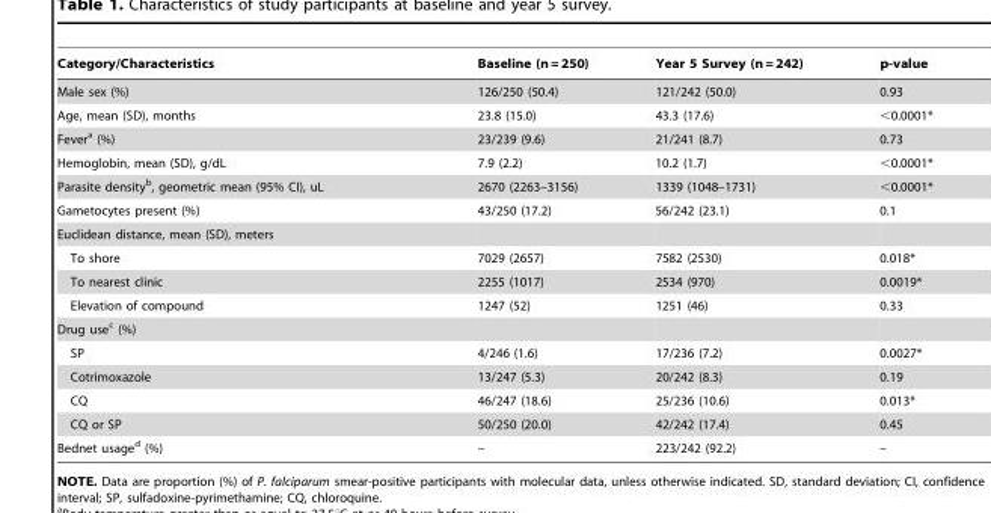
<table><thead><tr><td>Category/Characteristics</td><td>Baseline (n = 250)</td><td>Year 5 Survey (n = 242)</td><td>p-value</td></tr></thead><tbody><tr><td>Male sex (%)</td><td>126/250 (50.4)</td><td>121/242 (50.0)</td><td>0.93</td></tr><tr><td>Age, mean (SD), months</td><td>23.8 (15.0)</td><td>43.3 (17.6)</td><td>&lt;0.0001*</td></tr><tr><td>Fever<sup>a</sup> (%)</td><td>23/239 (9.6)</td><td>21/241 (8.7)</td><td>0.73</td></tr><tr><td>Hemoglobin, mean (SD), g/dL</td><td>7.9 (2.2)</td><td>10.2 (1.7)</td><td>&lt;0.0001*</td></tr><tr><td>Parasite density<sup>b</sup>, geometric mean (95% CI), uL</td><td>2670 (2263–3156)</td><td>1339 (1048–1731)</td><td>&lt;0.0001*</td></tr><tr><td>Gametocytes present (%)</td><td>43/250 (17.2)</td><td>56/242 (23.1)</td><td>0.1</td></tr><tr><td colspan="4">Euclidean distance, mean (SD), meters</td></tr><tr><td>To shore</td><td>7029 (2657)</td><td>7582 (2530)</td><td>0.018*</td></tr><tr><td>To nearest clinic</td><td>2255 (1017)</td><td>2534 (970)</td><td>0.0019*</td></tr><tr><td>Elevation of compound</td><td>1247 (52)</td><td>1251 (46)</td><td>0.33</td></tr><tr><td colspan="4">Drug use<sup>c</sup> (%)</td></tr><tr><td>SP</td><td>4/246 (1.6)</td><td>17/236 (7.2)</td><td>0.0027*</td></tr><tr><td>Cotrimoxazole</td><td>13/247 (5.3)</td><td>20/242 (8.3)</td><td>0.19</td></tr><tr><td>CQ</td><td>46/247 (18.6)</td><td>25/236 (10.6)</td><td>0.013*</td></tr><tr><td>CQ or SP</td><td>50/250 (20.0)</td><td>42/242 (17.4)</td><td>0.45</td></tr><tr><td>Bednet usage<sup>d</sup> (%)</td><td>–</td><td>223/242 (92.2)</td><td>–</td></tr></tbody></table>